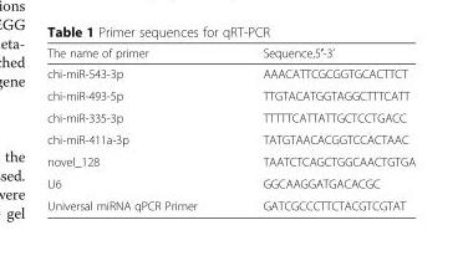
<table><thead><tr><td>The name of primer</td><td>Sequence,5′-3’</td></tr></thead><tbody><tr><td>chi-miR-543-3p</td><td>AAACATTCGCGGTGCACTTCT</td></tr><tr><td>chi-miR-493-5p</td><td>TTGTACATGGTAGGCTTTCATT</td></tr><tr><td>chi-miR-335-3p</td><td>TTTTTCATTATTGCTCCTGACC</td></tr><tr><td>chi-miR-411a-3p</td><td>TATGTAACACGGTCCACTAAC</td></tr><tr><td>novel_128</td><td>TAATCTCAGCTGGCAACTGTGA</td></tr><tr><td>U6</td><td>GGCAAGGATGACACGC</td></tr><tr><td>Universal miRNA qPCR Primer</td><td>GATCGCCCTTCTACGTCGTAT</td></tr></tbody></table>